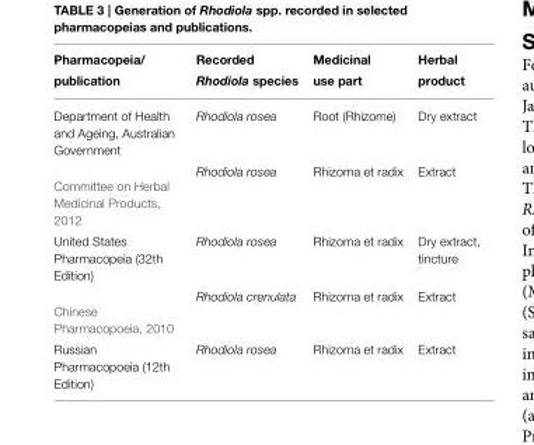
<table><thead><tr><td>Pharmacopeia/ publication</td><td>Recorded Rhodiola species</td><td>Medicinal use part</td><td>Herbal product</td></tr></thead><tbody><tr><td>Department of Health and Ageing, Australian Government</td><td>Rhodiola rosea</td><td>Root (Rhizome)</td><td>Dry extract</td></tr><tr><td>Committee on Herbal Medicinal Products, 2012</td><td>Rhodiola rosea</td><td>Rhizoma et radix</td><td>Extract</td></tr><tr><td>United States Pharmacopeia (32th Edition)</td><td>Rhodiola rosea</td><td>Rhizoma et radix</td><td>Dry extract, tincture</td></tr><tr><td>Chinese Pharmacopoeia, 2010</td><td>Rhodiola crenulata</td><td>Rhizoma et radix</td><td>Extract</td></tr><tr><td>Russian Pharmacopoeia (12th Edition)</td><td>Rhodiola rosea</td><td>Rhizoma et radix</td><td>Extract</td></tr></tbody></table>